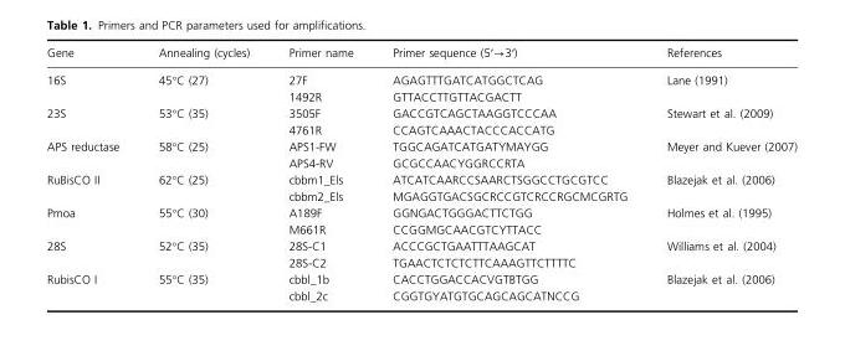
<table><thead><tr><td>Gene</td><td>Annealing (cycles)</td><td>Primer name</td><td>Primer sequence (5′→3′)</td><td>References</td></tr></thead><tbody><tr><td rowspan="2">16S</td><td rowspan="2">45°C (27)</td><td>27F</td><td>AGAGTTTGATCATGGCTCAG</td><td rowspan="2">Lane (1991)</td></tr><tr><td>1492R</td><td>GTTACCTTGTTACGACTT</td></tr><tr><td rowspan="2">23S</td><td rowspan="2">53°C (35)</td><td>3505F</td><td>GACCGTCAGCTAAGGTCCCAA</td><td rowspan="2">Stewart et al. (2009)</td></tr><tr><td>4761R</td><td>CCAGTCAAACTACCCACCATG</td></tr><tr><td rowspan="2">APS reductase</td><td rowspan="2">58°C (25)</td><td>APS1-FW</td><td>TGGCAGATCATGATYMAYGG</td><td rowspan="2">Meyer and Kuever (2007)</td></tr><tr><td>APS4-RV</td><td>GCGCCAACYGGRCCRTA</td></tr><tr><td rowspan="2">RuBisCO II</td><td rowspan="2">62°C (25)</td><td>cbbm1_Els</td><td>ATCATCAARCCSAARCTSGGCCTGCGTCC</td><td rowspan="2">Blazejak et al. (2006)</td></tr><tr><td>cbbm2_Els</td><td>MGAGGTGACSGCRCCGTCRCCRGCMCGRTG</td></tr><tr><td rowspan="2">Pmoa</td><td rowspan="2">55°C (30)</td><td>A189F</td><td>GGNGACTGGGACTTCTGG</td><td rowspan="2">Holmes et al. (1995)</td></tr><tr><td>M661R</td><td>CCGGMGCAACGTCYTTACC</td></tr><tr><td rowspan="2">28S</td><td rowspan="2">52°C (35)</td><td>28S-C1</td><td>ACCCGCTGAATTTAAGCAT</td><td rowspan="2">Williams et al. (2004)</td></tr><tr><td>28S-C2</td><td>TGAACTCTCTCTTCAAAGTTCTTTTC</td></tr><tr><td rowspan="2">RubisCO I</td><td rowspan="2">55°C (35)</td><td>cbbl_1b</td><td>CACCTGGACCACVGTBTGG</td><td rowspan="2">Blazejak et al. (2006)</td></tr><tr><td>cbbl_2c</td><td>CGGTGYATGTGCAGCAGCATNCCG</td></tr></tbody></table>